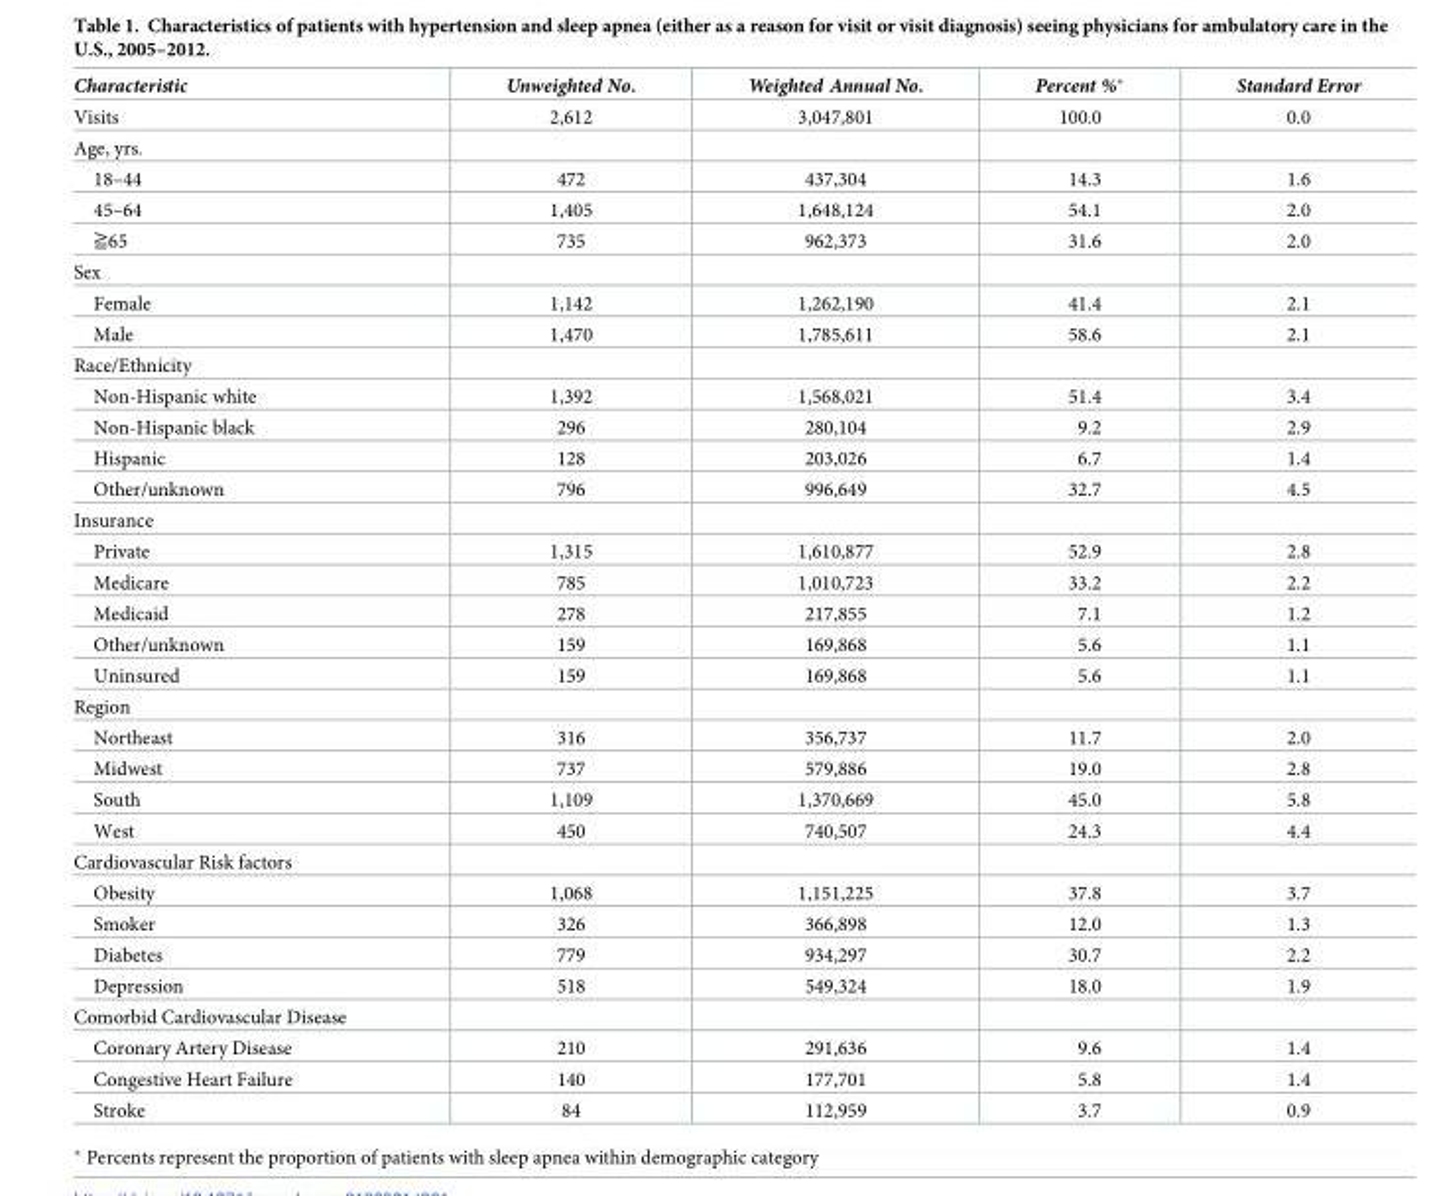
<table><thead><tr><td>Characteristic</td><td>Unweighted No.</td><td>Weighted Annual No.</td><td>Percent %*</td><td>Standard Error</td></tr></thead><tbody><tr><td>Visits</td><td>2,612</td><td>3,047,801</td><td>100.0</td><td>0.0</td></tr><tr><td colspan="5">Age, yrs.</td></tr><tr><td>18–44</td><td>472</td><td>437,304</td><td>14.3</td><td>1.6</td></tr><tr><td>45–64</td><td>1,405</td><td>1,648,124</td><td>54.1</td><td>2.0</td></tr><tr><td>≧65</td><td>735</td><td>962,373</td><td>31.6</td><td>2.0</td></tr><tr><td colspan="5">Sex</td></tr><tr><td>Female</td><td>1,142</td><td>1,262,190</td><td>41.4</td><td>2.1</td></tr><tr><td>Male</td><td>1,470</td><td>1,785,611</td><td>58.6</td><td>2.1</td></tr><tr><td colspan="5">Race/Ethnicity</td></tr><tr><td>Non-Hispanic white</td><td>1,392</td><td>1,568,021</td><td>51.4</td><td>3.4</td></tr><tr><td>Non-Hispanic black</td><td>296</td><td>280,104</td><td>9.2</td><td>2.9</td></tr><tr><td>Hispanic</td><td>128</td><td>203,026</td><td>6.7</td><td>1.4</td></tr><tr><td>Other/unknown</td><td>796</td><td>996,649</td><td>32.7</td><td>4.5</td></tr><tr><td colspan="5">Insurance</td></tr><tr><td>Private</td><td>1,315</td><td>1,610,877</td><td>52.9</td><td>2.8</td></tr><tr><td>Medicare</td><td>785</td><td>1,010,723</td><td>33.2</td><td>2.2</td></tr><tr><td>Medicaid</td><td>278</td><td>217,855</td><td>7.1</td><td>1.2</td></tr><tr><td>Other/unknown</td><td>159</td><td>169,868</td><td>5.6</td><td>1.1</td></tr><tr><td>Uninsured</td><td>159</td><td>169,868</td><td>5.6</td><td>1.1</td></tr><tr><td colspan="5">Region</td></tr><tr><td>Northeast</td><td>316</td><td>356,737</td><td>11.7</td><td>2.0</td></tr><tr><td>Midwest</td><td>737</td><td>579,886</td><td>19.0</td><td>2.8</td></tr><tr><td>South</td><td>1,109</td><td>1,370,669</td><td>45.0</td><td>5.8</td></tr><tr><td>West</td><td>450</td><td>740,507</td><td>24.3</td><td>4.4</td></tr><tr><td colspan="5">Cardiovascular Risk factors</td></tr><tr><td>Obesity</td><td>1,068</td><td>1,151,225</td><td>37.8</td><td>3.7</td></tr><tr><td>Smoker</td><td>326</td><td>366,898</td><td>12.0</td><td>1.3</td></tr><tr><td>Diabetes</td><td>779</td><td>934,297</td><td>30.7</td><td>2.2</td></tr><tr><td>Depression</td><td>518</td><td>549,324</td><td>18.0</td><td>1.9</td></tr><tr><td colspan="5">Comorbid Cardiovascular Disease</td></tr><tr><td>Coronary Artery Disease</td><td>210</td><td>291,636</td><td>9.6</td><td>1.4</td></tr><tr><td>Congestive Heart Failure</td><td>140</td><td>177,701</td><td>5.8</td><td>1.4</td></tr><tr><td>Stroke</td><td>84</td><td>112,959</td><td>3.7</td><td>0.9</td></tr></tbody></table>